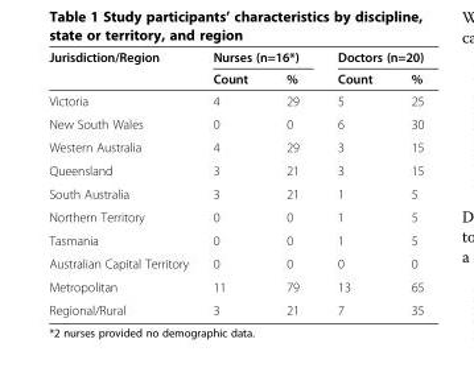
<table><thead><tr><td rowspan="2">Jurisdiction/Region</td><td colspan="2">Nurses (n=16*)</td><td colspan="2">Doctors (n=20)</td></tr><tr><td>Count</td><td>%</td><td>Count</td><td>%</td></tr></thead><tbody><tr><td>Victoria</td><td>4</td><td>29</td><td>5</td><td>25</td></tr><tr><td>New South Wales</td><td>0</td><td>0</td><td>6</td><td>30</td></tr><tr><td>Western Australia</td><td>4</td><td>29</td><td>3</td><td>15</td></tr><tr><td>Queensland</td><td>3</td><td>21</td><td>3</td><td>15</td></tr><tr><td>South Australia</td><td>3</td><td>21</td><td>1</td><td>5</td></tr><tr><td>Northern Territory</td><td>0</td><td>0</td><td>1</td><td>5</td></tr><tr><td>Tasmania</td><td>0</td><td>0</td><td>1</td><td>5</td></tr><tr><td>Australian Capital Territory</td><td>0</td><td>0</td><td>0</td><td>0</td></tr><tr><td>Metropolitan</td><td>11</td><td>79</td><td>13</td><td>65</td></tr><tr><td>Regional/Rural</td><td>3</td><td>21</td><td>7</td><td>35</td></tr></tbody></table>